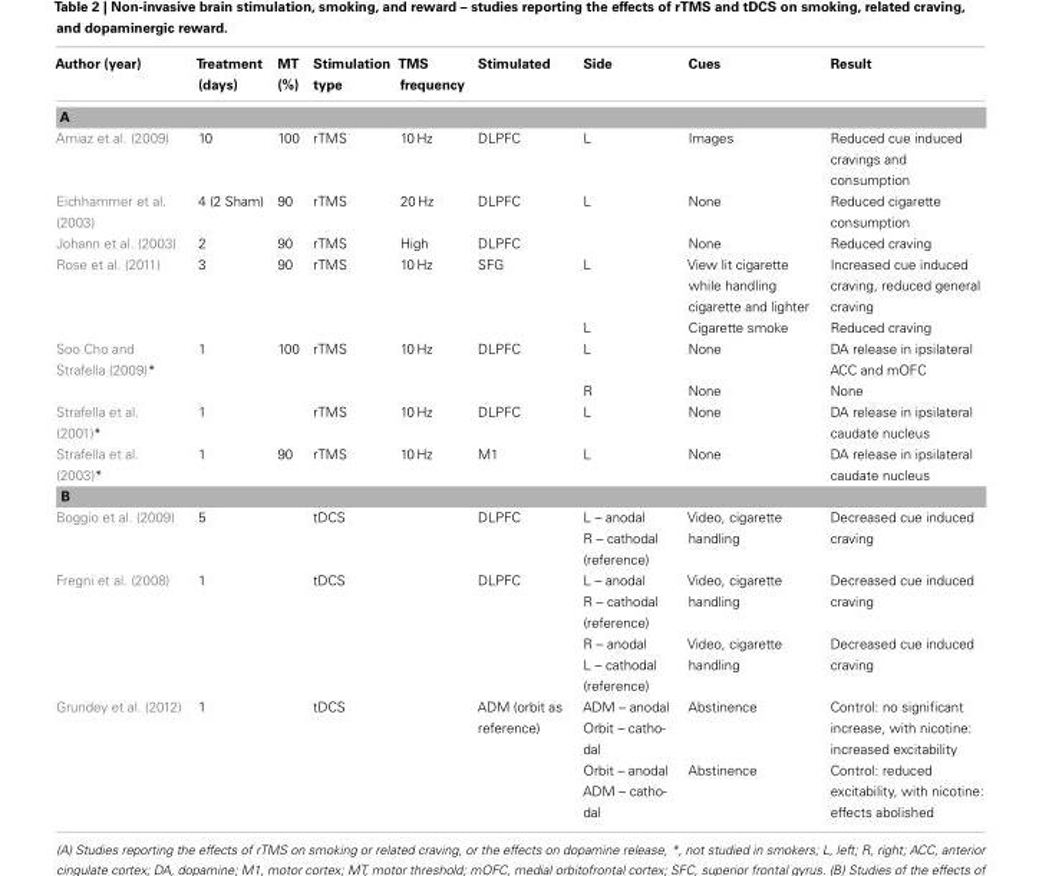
<table><thead><tr><td>Author (year)</td><td>Treatment (days)</td><td>MT (%)</td><td>Stimulation type</td><td>TMS frequency</td><td>Stimulated</td><td>Side</td><td>Cues</td><td>Result</td></tr></thead><tbody><tr><td colspan="9">A</td></tr><tr><td>Amiaz et al. (2009)</td><td>10</td><td>100</td><td>rTMS</td><td>10 Hz</td><td>DLPFC</td><td>L</td><td>Images</td><td>Reduced cue induced cravings and consumption</td></tr><tr><td>Eichhammer et al. (2003)</td><td>4 (2 Sham)</td><td>90</td><td>rTMS</td><td>20 Hz</td><td>DLPFC</td><td>L</td><td>None</td><td>Reduced cigarette consumption</td></tr><tr><td>Johann et al. (2003)</td><td>2</td><td>90</td><td>rTMS</td><td>High</td><td>DLPFC</td><td></td><td>None</td><td>Reduced craving</td></tr><tr><td rowspan="2">Rose et al. (2011)</td><td>3</td><td>90</td><td>rTMS</td><td>10 Hz</td><td>SFG</td><td>L</td><td>View lit cigarette while handling cigarette and lighter</td><td>Increased cue induced craving, reduced general craving</td></tr><tr><td></td><td></td><td></td><td></td><td></td><td>L</td><td>Cigarette smoke</td><td>Reduced craving</td></tr><tr><td rowspan="2">Soo Cho and Strafella (2009)*</td><td>1</td><td>100</td><td>rTMS</td><td>10 Hz</td><td>DLPFC</td><td>L</td><td>None</td><td>DA release in ipsilateral ACC and mOFC</td></tr><tr><td></td><td></td><td></td><td></td><td></td><td>R</td><td>None</td><td>None</td></tr><tr><td>Strafella et al. (2001)*</td><td>1</td><td></td><td>rTMS</td><td>10 Hz</td><td>DLPFC</td><td>L</td><td>None</td><td>DA release in ipsilateral caudate nucleus</td></tr><tr><td>Strafella et al. (2003)*</td><td>1</td><td>90</td><td>rTMS</td><td>10 Hz</td><td>M1</td><td>L</td><td>None</td><td>DA release in ipsilateral caudate nucleus</td></tr><tr><td colspan="9">B</td></tr><tr><td>Boggio et al. (2009)</td><td>5</td><td></td><td>tDCS</td><td></td><td>DLPFC</td><td>L – anodal R – cathodal (reference)</td><td>Video, cigarette handling</td><td>Decreased cue induced craving</td></tr><tr><td rowspan="2">Fregni et al. (2008)</td><td>1</td><td></td><td>tDCS</td><td></td><td>DLPFC</td><td>L – anodal R – cathodal (reference)</td><td>Video, cigarette handling</td><td>Decreased cue induced craving</td></tr><tr><td></td><td></td><td></td><td></td><td></td><td>R – anodal L – cathodal (reference)</td><td>Video, cigarette handling</td><td>Decreased cue induced craving</td></tr><tr><td rowspan="2">Grundey et al. (2012)</td><td>1</td><td></td><td>tDCS</td><td></td><td>ADM (orbit as reference)</td><td>ADM – anodal Orbit – catho- dal</td><td>Abstinence</td><td>Control: no significant increase, with nicotine: increased excitability</td></tr><tr><td></td><td></td><td></td><td></td><td></td><td>Orbit – anodal ADM – catho- dal</td><td>Abstinence</td><td>Control: reduced excitability, with nicotine: effects abolished</td></tr></tbody></table>